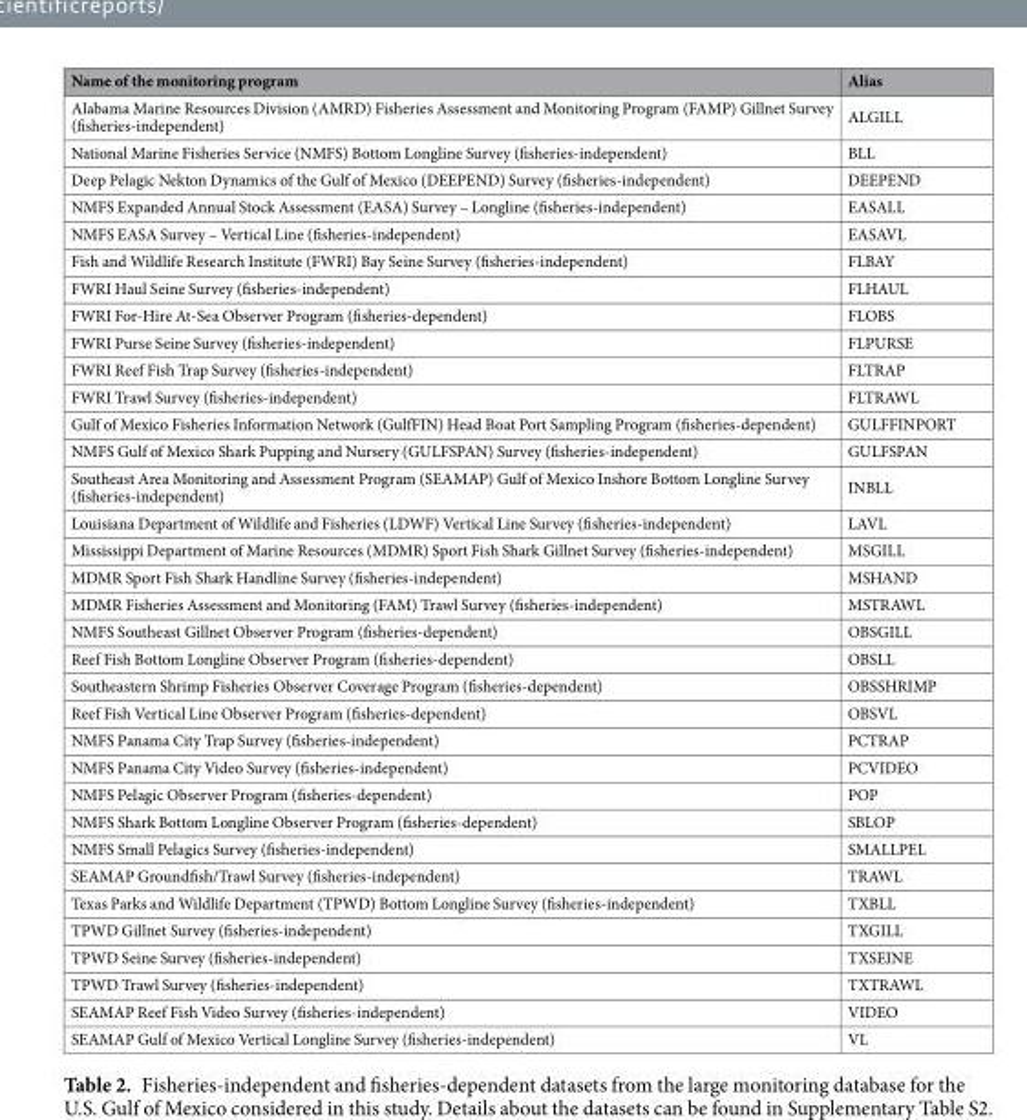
<table><thead><tr><td>Name of the monitoring program</td><td>Alias</td></tr></thead><tbody><tr><td>Alabama Marine Resources Division (AMRD) Fisheries Assessment and Monitoring Program (FAMP) Gillnet Survey (fisheries-independent)</td><td>ALGILL</td></tr><tr><td>National Marine Fisheries Service (NMFS) Bottom Longline Survey (fisheries-independent)</td><td>BLL</td></tr><tr><td>Deep Pelagic Nekton Dynamics of the Gulf of Mexico (DEEPEND) Survey (fisheries-independent)</td><td>DEEPEND</td></tr><tr><td>NMFS Expanded Annual Stock Assessment (EASA) Survey – Longline (fisheries-independent)</td><td>EASALL</td></tr><tr><td>NMFS EASA Survey – Vertical Line (fisheries-independent)</td><td>EASAVL</td></tr><tr><td>Fish and Wildlife Research Institute (FWRI) Bay Seine Survey (fisheries-independent)</td><td>FLBAY</td></tr><tr><td>FWRI Haul Seine Survey (fisheries-independent)</td><td>FLHAUL</td></tr><tr><td>FWRI For-Hire At-Sea Observer Program (fisheries-dependent)</td><td>FLOBS</td></tr><tr><td>FWRI Purse Seine Survey (fisheries-independent)</td><td>FLPURSE</td></tr><tr><td>FWRI Reef Fish Trap Survey (fisheries-independent)</td><td>FLTRAP</td></tr><tr><td>FWRI Trawl Survey (fisheries-independent)</td><td>FLTRAWL</td></tr><tr><td>Gulf of Mexico Fisheries Information Network (GulfFIN) Head Boat Port Sampling Program (fisheries-dependent)</td><td>GULFFINPORT</td></tr><tr><td>NMFS Gulf of Mexico Shark Pupping and Nursery (GULFSPAN) Survey (fisheries-independent)</td><td>GULFSPAN</td></tr><tr><td>Southeast Area Monitoring and Assessment Program (SEAMAP) Gulf of Mexico Inshore Bottom Longline Survey (fisheries-independent)</td><td>INBLL</td></tr><tr><td>Louisiana Department of Wildlife and Fisheries (LDWF) Vertical Line Survey (fisheries-independent)</td><td>LAVL</td></tr><tr><td>Mississippi Department of Marine Resources (MDMR) Sport Fish Shark Gillnet Survey (fisheries-independent)</td><td>MSGILL</td></tr><tr><td>MDMR Sport Fish Shark Handline Survey (fisheries-independent)</td><td>MSHAND</td></tr><tr><td>MDMR Fisheries Assessment and Monitoring (FAM) Trawl Survey (fisheries-independent)</td><td>MSTRAWL</td></tr><tr><td>NMFS Southeast Gillnet Observer Program (fisheries-dependent)</td><td>OBSGILL</td></tr><tr><td>Reef Fish Bottom Longline Observer Program (fisheries-dependent)</td><td>OBSLL</td></tr><tr><td>Southeastern Shrimp Fisheries Observer Coverage Program (fisheries-dependent)</td><td>OBSSHRIMP</td></tr><tr><td>Reef Fish Vertical Line Observer Program (fisheries-dependent)</td><td>OBSVL</td></tr><tr><td>NMFS Panama City Trap Survey (fisheries-independent)</td><td>PCTRAP</td></tr><tr><td>NMFS Panama City Video Survey (fisheries-independent)</td><td>PCVIDEO</td></tr><tr><td>NMFS Pelagic Observer Program (fisheries-dependent)</td><td>POP</td></tr><tr><td>NMFS Shark Bottom Longline Observer Program (fisheries-dependent)</td><td>SBLOP</td></tr><tr><td>NMFS Small Pelagics Survey (fisheries-independent)</td><td>SMALLPEL</td></tr><tr><td>SEAMAP Groundfish/Trawl Survey (fisheries-independent)</td><td>TRAWL</td></tr><tr><td>Texas Parks and Wildlife Department (TPWD) Bottom Longline Survey (fisheries-independent)</td><td>TXBLL</td></tr><tr><td>TPWD Gillnet Survey (fisheries-independent)</td><td>TXGILL</td></tr><tr><td>TPWD Seine Survey (fisheries-independent)</td><td>TXSEINE</td></tr><tr><td>TPWD Trawl Survey (fisheries-independent)</td><td>TXTRAWL</td></tr><tr><td>SEAMAP Reef Fish Video Survey (fisheries-independent)</td><td>VIDEO</td></tr><tr><td>SEAMAP Gulf of Mexico Vertical Longline Survey (fisheries-independent)</td><td>VL</td></tr></tbody></table>